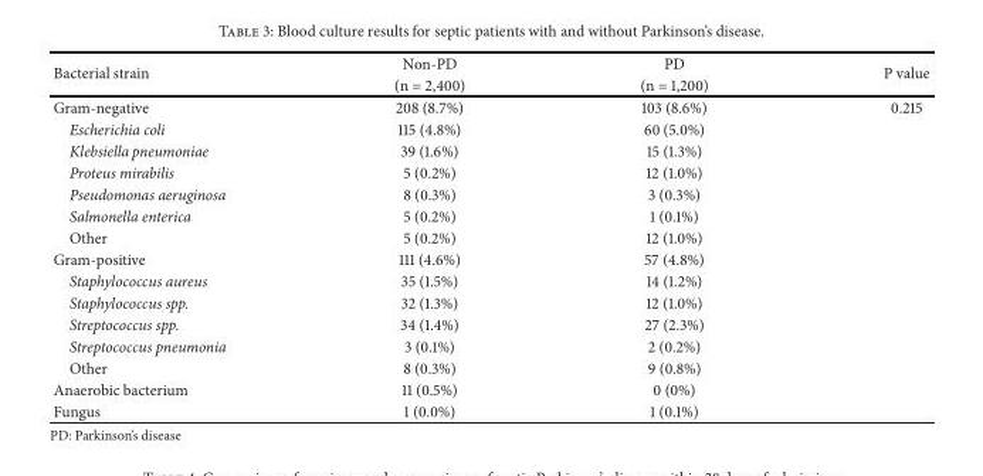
<table><thead><tr><td rowspan="2">Bacterial strain</td><td rowspan="2">Non-PD (n = 2,400)</td><td rowspan="2">PD (n = 1,200)</td><td rowspan="2">P value</td></tr><tr></tr></thead><tbody><tr><td>Gram-negative</td><td>208 (8.7%)</td><td>103 (8.6%)</td><td>0.215</td></tr><tr><td>Escherichia coli</td><td>115 (4.8%)</td><td>60 (5.0%)</td><td></td></tr><tr><td>Klebsiella pneumoniae</td><td>39 (1.6%)</td><td>15 (1.3%)</td><td></td></tr><tr><td>Proteus mirabilis</td><td>5 (0.2%)</td><td>12 (1.0%)</td><td></td></tr><tr><td>Pseudomonas aeruginosa</td><td>8 (0.3%)</td><td>3 (0.3%)</td><td></td></tr><tr><td>Salmonella enterica</td><td>5 (0.2%)</td><td>1 (0.1%)</td><td></td></tr><tr><td>Other</td><td>5 (0.2%)</td><td>12 (1.0%)</td><td></td></tr><tr><td>Gram-positive</td><td>111 (4.6%)</td><td>57 (4.8%)</td><td></td></tr><tr><td>Staphylococcus aureus</td><td>35 (1.5%)</td><td>14 (1.2%)</td><td></td></tr><tr><td>Staphylococcus spp.</td><td>32 (1.3%)</td><td>12 (1.0%)</td><td></td></tr><tr><td>Streptococcus spp.</td><td>34 (1.4%)</td><td>27 (2.3%)</td><td></td></tr><tr><td>Streptococcus pneumonia</td><td>3 (0.1%)</td><td>2 (0.2%)</td><td></td></tr><tr><td>Other</td><td>8 (0.3%)</td><td>9 (0.8%)</td><td></td></tr><tr><td>Anaerobic bacterium</td><td>11 (0.5%)</td><td>0 (0%)</td><td></td></tr><tr><td>Fungus</td><td>1 (0.0%)</td><td>1 (0.1%)</td><td></td></tr></tbody></table>